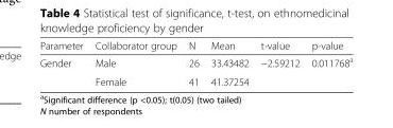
<table><thead><tr><td>Parameter</td><td>Collaborator group</td><td>N</td><td>Mean</td><td>t-value</td><td>p-value</td></tr></thead><tbody><tr><td rowspan="2">Gender</td><td>Male</td><td>26</td><td>33.43482</td><td rowspan="2">−2.59212</td><td rowspan="2">0.011768<sup>a</sup></td></tr><tr><td>Female</td><td>41</td><td>41.37254</td></tr></tbody></table>